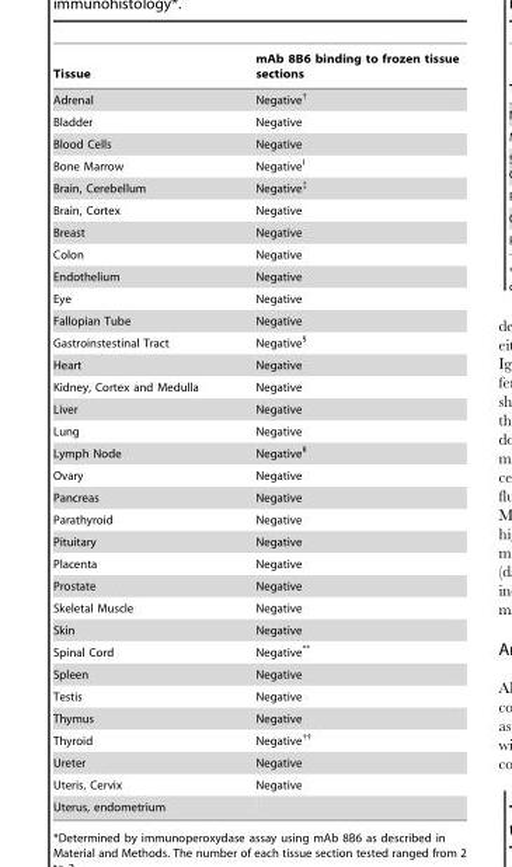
<table><thead><tr><td>Tissue</td><td>mAb 8B6 binding to frozen tissue sections</td></tr></thead><tbody><tr><td>Adrenal</td><td>Negative†</td></tr><tr><td>Bladder</td><td>Negative</td></tr><tr><td>Blood Cells</td><td>Negative</td></tr><tr><td>Bone Marrow</td><td>Negative<sup>I</sup></td></tr><tr><td>Brain, Cerebellum</td><td>Negative‡</td></tr><tr><td>Brain, Cortex</td><td>Negative</td></tr><tr><td>Breast</td><td>Negative</td></tr><tr><td>Colon</td><td>Negative</td></tr><tr><td>Endothelium</td><td>Negative</td></tr><tr><td>Eye</td><td>Negative</td></tr><tr><td>Fallopian Tube</td><td>Negative</td></tr><tr><td>Gastroinstestinal Tract</td><td>Negative§</td></tr><tr><td>Heart</td><td>Negative</td></tr><tr><td>Kidney, Cortex and Medulla</td><td>Negative</td></tr><tr><td>Liver</td><td>Negative</td></tr><tr><td>Lung</td><td>Negative</td></tr><tr><td>Lymph Node</td><td>Negative<sup>II</sup></td></tr><tr><td>Ovary</td><td>Negative</td></tr><tr><td>Pancreas</td><td>Negative</td></tr><tr><td>Parathyroid</td><td>Negative</td></tr><tr><td>Pituitary</td><td>Negative</td></tr><tr><td>Placenta</td><td>Negative</td></tr><tr><td>Prostate</td><td>Negative</td></tr><tr><td>Skeletal Muscle</td><td>Negative</td></tr><tr><td>Skin</td><td>Negative</td></tr><tr><td>Spinal Cord</td><td>Negative**</td></tr><tr><td>Spleen</td><td>Negative</td></tr><tr><td>Testis</td><td>Negative</td></tr><tr><td>Thymus</td><td>Negative</td></tr><tr><td>Thyroid</td><td>Negative††</td></tr><tr><td>Ureter</td><td>Negative</td></tr><tr><td>Uteris, Cervix</td><td>Negative</td></tr><tr><td>Uterus, endometrium</td><td></td></tr></tbody></table>